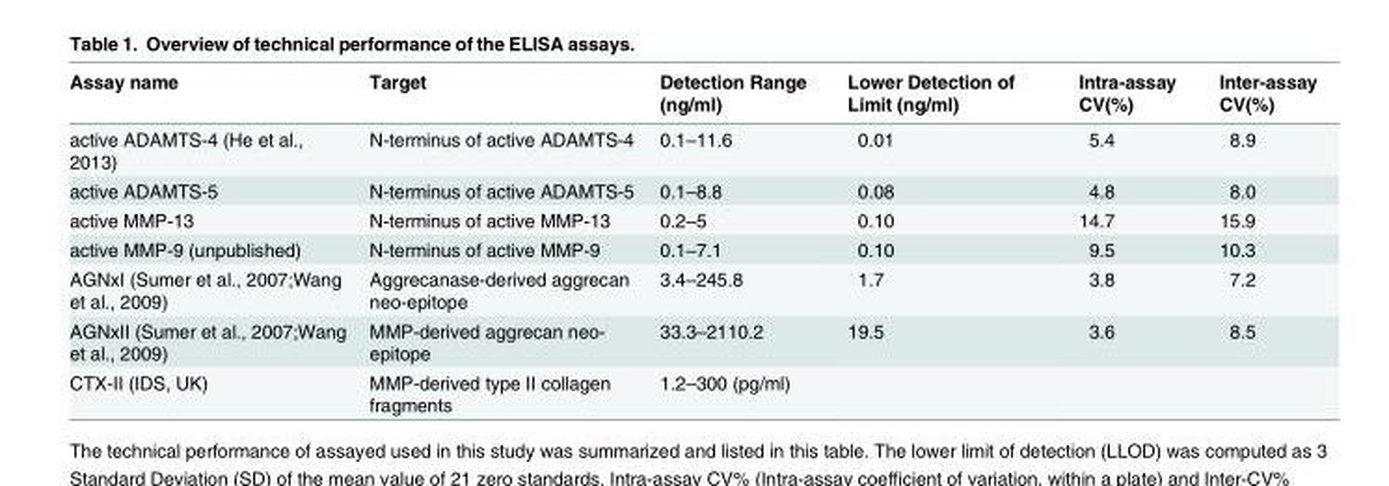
<table><thead><tr><td>Assay name</td><td>Target</td><td>Detection Range (ng/ml)</td><td>Lower Detection of Limit (ng/ml)</td><td>Intra-assay CV(%)</td><td>Inter-assay CV(%)</td></tr></thead><tbody><tr><td>active ADAMTS-4 (He et al., 2013)</td><td>N-terminus of active ADAMTS-4</td><td>0.1–11.6</td><td>0.01</td><td>5.4</td><td>8.9</td></tr><tr><td>active ADAMTS-5</td><td>N-terminus of active ADAMTS-5</td><td>0.1–8.8</td><td>0.08</td><td>4.8</td><td>8.0</td></tr><tr><td>active MMP-13</td><td>N-terminus of active MMP-13</td><td>0.2–5</td><td>0.10</td><td>14.7</td><td>15.9</td></tr><tr><td>active MMP-9 (unpublished)</td><td>N-terminus of active MMP-9</td><td>0.1–7.1</td><td>0.10</td><td>9.5</td><td>10.3</td></tr><tr><td>AGNxI (Sumer et al., 2007;Wang et al., 2009)</td><td>Aggrecanase-derived aggrecan neo-epitope</td><td>3.4–245.8</td><td>1.7</td><td>3.8</td><td>7.2</td></tr><tr><td>AGNxII (Sumer et al., 2007;Wang et al., 2009)</td><td>MMP-derived aggrecan neo- epitope</td><td>33.3–2110.2</td><td>19.5</td><td>3.6</td><td>8.5</td></tr><tr><td>CTX-II (IDS, UK)</td><td>MMP-derived type II collagen fragments</td><td>1.2–300 (pg/ml)</td><td></td><td></td><td></td></tr></tbody></table>